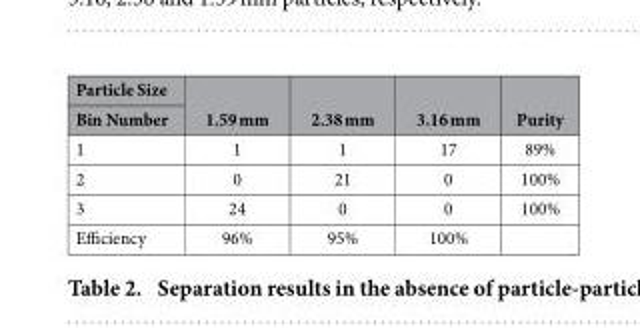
<table><thead><tr><td rowspan="2">Particle Size Bin Number</td><td rowspan="2">1.59 mm</td><td rowspan="2">2.38 mm</td><td rowspan="2">3.16 mm</td><td rowspan="2">Purity</td></tr><tr></tr></thead><tbody><tr><td>1</td><td>1</td><td>1</td><td>17</td><td>89%</td></tr><tr><td>2</td><td>0</td><td>21</td><td>0</td><td>100%</td></tr><tr><td>3</td><td>24</td><td>0</td><td>0</td><td>100%</td></tr><tr><td>Efficiency</td><td>96%</td><td>95%</td><td>100%</td><td></td></tr></tbody></table>